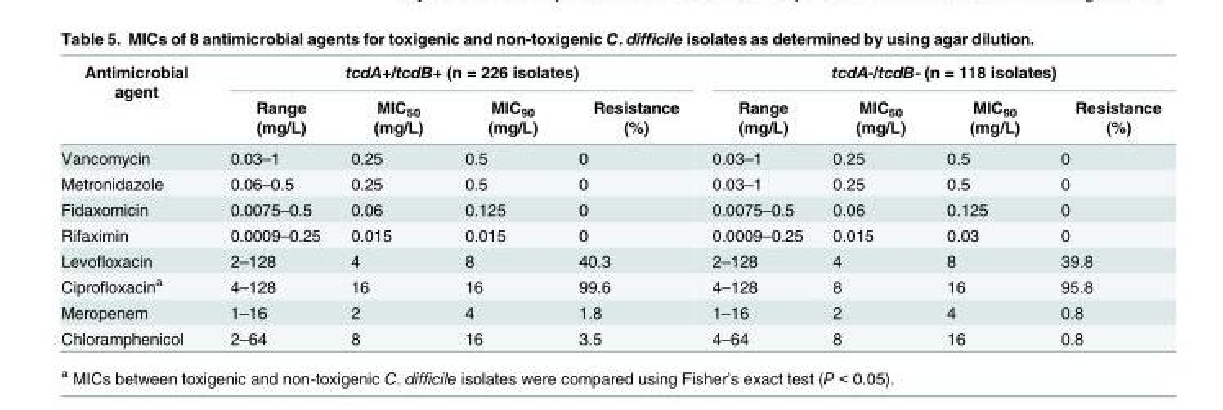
<table><thead><tr><td rowspan="2">Antimicrobial agent</td><td colspan="4">tcdA+/tcdB+ (n = 226 isolates)</td><td colspan="4">tcdA-/tcdB- (n = 118 isolates)</td></tr><tr><td>Range (mg/L)</td><td>MIC<sub>50</sub> (mg/L)</td><td>MIC<sub>90</sub> (mg/L)</td><td>Resistance (%)</td><td>Range (mg/L)</td><td>MIC<sub>50</sub> (mg/L)</td><td>MIC<sub>90</sub> (mg/L)</td><td>Resistance (%)</td></tr></thead><tbody><tr><td>Vancomycin</td><td>0.03–1</td><td>0.25</td><td>0.5</td><td>0</td><td>0.03–1</td><td>0.25</td><td>0.5</td><td>0</td></tr><tr><td>Metronidazole</td><td>0.06–0.5</td><td>0.25</td><td>0.5</td><td>0</td><td>0.03–1</td><td>0.25</td><td>0.5</td><td>0</td></tr><tr><td>Fidaxomicin</td><td>0.0075–0.5</td><td>0.06</td><td>0.125</td><td>0</td><td>0.0075–0.5</td><td>0.06</td><td>0.125</td><td>0</td></tr><tr><td>Rifaximin</td><td>0.0009–0.25</td><td>0.015</td><td>0.015</td><td>0</td><td>0.0009–0.25</td><td>0.015</td><td>0.03</td><td>0</td></tr><tr><td>Levofloxacin</td><td>2–128</td><td>4</td><td>8</td><td>40.3</td><td>2–128</td><td>4</td><td>8</td><td>39.8</td></tr><tr><td>Ciprofloxacin<sup>a</sup></td><td>4–128</td><td>16</td><td>16</td><td>99.6</td><td>4–128</td><td>8</td><td>16</td><td>95.8</td></tr><tr><td>Meropenem</td><td>1–16</td><td>2</td><td>4</td><td>1.8</td><td>1–16</td><td>2</td><td>4</td><td>0.8</td></tr><tr><td>Chloramphenicol</td><td>2–64</td><td>8</td><td>16</td><td>3.5</td><td>4–64</td><td>8</td><td>16</td><td>0.8</td></tr></tbody></table>